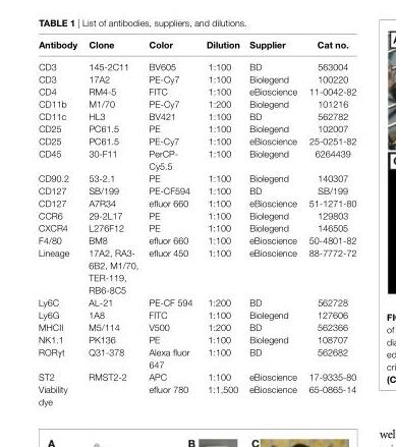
<table><thead><tr><td>Antibody</td><td>Clone</td><td>Color</td><td>dilution</td><td>supplier</td><td>Cat no.</td></tr></thead><tbody><tr><td>CD3</td><td>145-2C11</td><td>BV605</td><td>1:100</td><td>BD</td><td>563004</td></tr><tr><td>CD3</td><td>17A2</td><td>PE-Cy7</td><td>1:100</td><td>Biolegend</td><td>100220</td></tr><tr><td>CD4</td><td>RM4-5</td><td>FITC</td><td>1:100</td><td>eBioscience</td><td>11-0042-82</td></tr><tr><td>CD11b</td><td>M1/70</td><td>PE-Cy7</td><td>1:200</td><td>Biolegend</td><td>101216</td></tr><tr><td>CD11c</td><td>HL3</td><td>BV421</td><td>1:100</td><td>BD</td><td>562782</td></tr><tr><td>CD25</td><td>PC61.5</td><td>PE</td><td>1:100</td><td>Biolegend</td><td>102007</td></tr><tr><td>CD25</td><td>PC61.5</td><td>PE-Cy7</td><td>1:100</td><td>eBioscience</td><td>25-0251-82</td></tr><tr><td>CD45</td><td>30-F11</td><td>PerCP- Cy5.5</td><td>1:100</td><td>Biolegend</td><td>6264439</td></tr><tr><td>CD90.2</td><td>53-2.1</td><td>PE</td><td>1:100</td><td>Biolegend</td><td>140307</td></tr><tr><td>CD127</td><td>SB/199</td><td>PE-CF594</td><td>1:100</td><td>BD</td><td>SB/199</td></tr><tr><td>CD127</td><td>A7R34</td><td>efluor 660</td><td>1:100</td><td>eBioscience</td><td>51-1271-80</td></tr><tr><td>CCR6</td><td>29-2L17</td><td>PE</td><td>1:100</td><td>Biolegend</td><td>129803</td></tr><tr><td>CXCR4</td><td>L276F12</td><td>PE</td><td>1:100</td><td>Biolegend</td><td>146505</td></tr><tr><td>F4/80</td><td>BM8</td><td>efluor 660</td><td>1:100</td><td>eBioscience</td><td>50-4801-82</td></tr><tr><td>Lineage</td><td>17A2, RA3- 6B2, M1/70, TER-119, RB6-8C5</td><td>efluor 450</td><td>1:100</td><td>eBioscience</td><td>88-7772-72</td></tr><tr><td>Ly6C</td><td>AL-21</td><td>PE-CF 594</td><td>1:200</td><td>BD</td><td>562728</td></tr><tr><td>Ly6G</td><td>1A8</td><td>FITC</td><td>1:100</td><td>Biolegend</td><td>127606</td></tr><tr><td>MHCII</td><td>M5/114</td><td>V500</td><td>1:200</td><td>BD</td><td>562366</td></tr><tr><td>NK1.1</td><td>PK136</td><td>PE</td><td>1:100</td><td>Biolegend</td><td>108707</td></tr><tr><td>RORγt</td><td>Q31-378</td><td>Alexa fluor 647</td><td>1:100</td><td>BD</td><td>562682</td></tr><tr><td>ST2</td><td>RMST2-2</td><td>APC</td><td>1:100</td><td>eBioscience</td><td>17-9335-80</td></tr><tr><td>Viability dye</td><td></td><td>efluor 780</td><td>1:1,500</td><td>eBioscience</td><td>65-0865-14</td></tr></tbody></table>